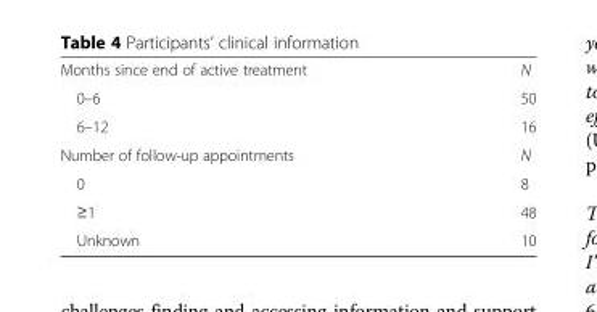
<table><tbody><tr><td>Months since end of active treatment</td><td>N</td></tr><tr><td>0–6</td><td>50</td></tr><tr><td>6–12</td><td>16</td></tr><tr><td>Number of follow-up appointments</td><td>N</td></tr><tr><td>0</td><td>8</td></tr><tr><td>≥1</td><td>48</td></tr><tr><td>Unknown</td><td>10</td></tr></tbody></table>